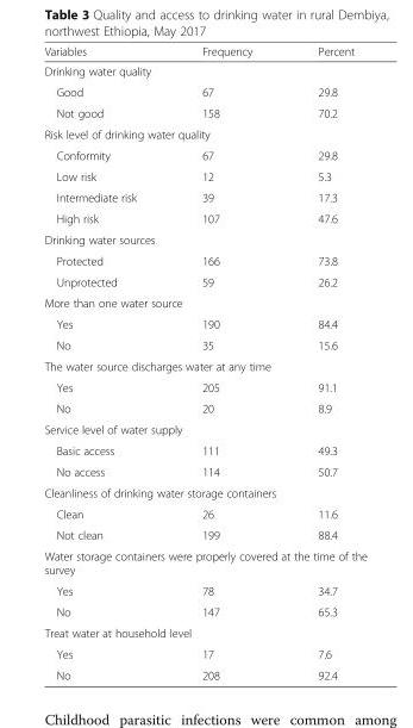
<table><thead><tr><td>Variables</td><td>Frequency</td><td>Percent</td></tr></thead><tbody><tr><td colspan="3">Drinking water quality</td></tr><tr><td>Good</td><td>67</td><td>29.8</td></tr><tr><td>Not good</td><td>158</td><td>70.2</td></tr><tr><td colspan="3">Risk level of drinking water quality</td></tr><tr><td>Conformity</td><td>67</td><td>29.8</td></tr><tr><td>Low risk</td><td>12</td><td>5.3</td></tr><tr><td>Intermediate risk</td><td>39</td><td>17.3</td></tr><tr><td>High risk</td><td>107</td><td>47.6</td></tr><tr><td colspan="3">Drinking water sources</td></tr><tr><td>Protected</td><td>166</td><td>73.8</td></tr><tr><td>Unprotected</td><td>59</td><td>26.2</td></tr><tr><td colspan="3">More than one water source</td></tr><tr><td>Yes</td><td>190</td><td>84.4</td></tr><tr><td>No</td><td>35</td><td>15.6</td></tr><tr><td colspan="3">The water source discharges water at any time</td></tr><tr><td>Yes</td><td>205</td><td>91.1</td></tr><tr><td>No</td><td>20</td><td>8.9</td></tr><tr><td colspan="3">Service level of water supply</td></tr><tr><td>Basic access</td><td>111</td><td>49.3</td></tr><tr><td>No access</td><td>114</td><td>50.7</td></tr><tr><td colspan="3">Cleanliness of drinking water storage containers</td></tr><tr><td>Clean</td><td>26</td><td>11.6</td></tr><tr><td>Not clean</td><td>199</td><td>88.4</td></tr><tr><td colspan="3">Water storage containers were properly covered at the time of the survey</td></tr><tr><td>Yes</td><td>78</td><td>34.7</td></tr><tr><td>No</td><td>147</td><td>65.3</td></tr><tr><td colspan="3">Treat water at household level</td></tr><tr><td>Yes</td><td>17</td><td>7.6</td></tr><tr><td>No</td><td>208</td><td>92.4</td></tr></tbody></table>